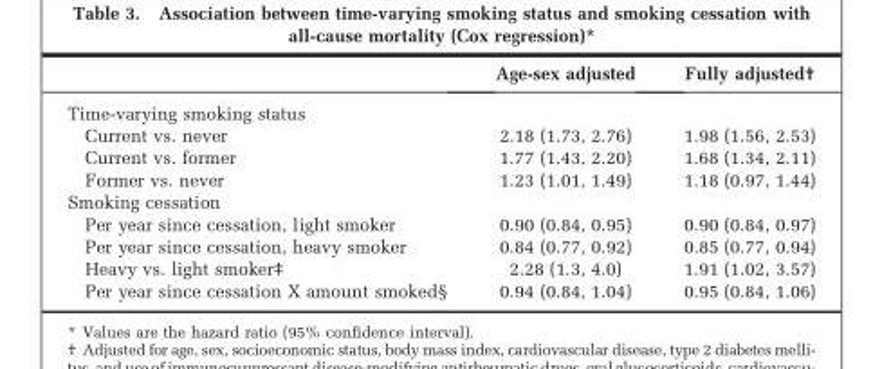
<table><thead><tr><td></td><td>Age-sex adjusted</td><td>Fully adjusted†</td></tr></thead><tbody><tr><td colspan="3">Time-varying smoking status</td></tr><tr><td>Current vs. never</td><td>2.18 (1.73, 2.76)</td><td>1.98 (1.56, 2.53)</td></tr><tr><td>Current vs. former</td><td>1.77 (1.43, 2.20)</td><td>1.68 (1.34, 2.11)</td></tr><tr><td>Former vs. never</td><td>1.23 (1.01, 1.49)</td><td>1.18 (0.97, 1.44)</td></tr><tr><td colspan="3">Smoking cessation</td></tr><tr><td>Per year since cessation, light smoker</td><td>0.90 (0.84, 0.95)</td><td>0.90 (0.84, 0.97)</td></tr><tr><td>Per year since cessation, heavy smoker</td><td>0.84 (0.77, 0.92)</td><td>0.85 (0.77, 0.94)</td></tr><tr><td>Heavy vs. light smoker‡</td><td>2.28 (1.3, 4.0)</td><td>1.91 (1.02, 3.57)</td></tr><tr><td>Per year since cessation X amount smoked§</td><td>0.94 (0.84, 1.04)</td><td>0.95 (0.84, 1.06)</td></tr></tbody></table>